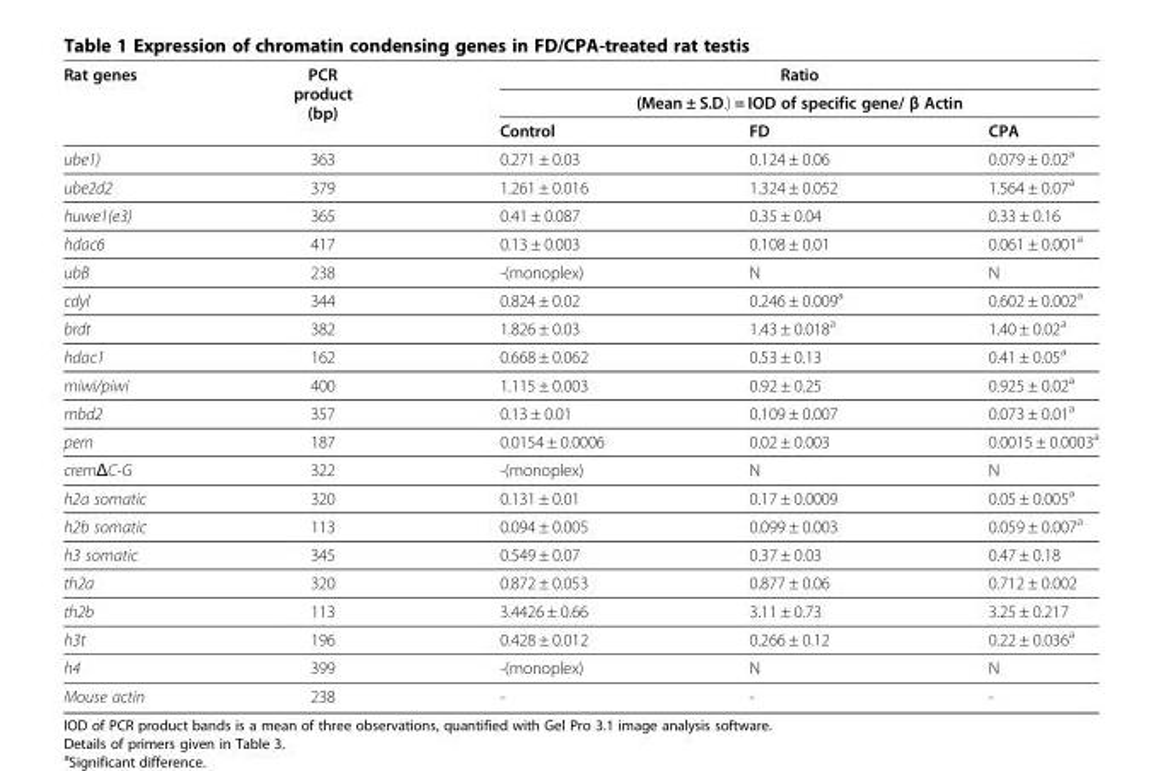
<table><thead><tr><td rowspan="3">Rat genes</td><td rowspan="3">PCR product (bp)</td><td rowspan="2" colspan="3">Ratio (Mean ± S.D.) = IOD of specific gene/ β Actin</td></tr><tr></tr><tr><td>Control</td><td>FD</td><td>CPA</td></tr></thead><tbody><tr><td>ube1)</td><td>363</td><td>0.271 ± 0.03</td><td>0.124 ± 0.06</td><td>0.079 ± 0.02<sup>a</sup></td></tr><tr><td>ube2d2</td><td>379</td><td>1.261 ± 0.016</td><td>1.324 ± 0.052</td><td>1.564 ± 0.07<sup>a</sup></td></tr><tr><td>huwe1(e3)</td><td>365</td><td>0.41 ± 0.087</td><td>0.35 ± 0.04</td><td>0.33 ± 0.16</td></tr><tr><td>hdac6</td><td>417</td><td>0.13 ± 0.003</td><td>0.108 ± 0.01</td><td>0.061 ± 0.001<sup>a</sup></td></tr><tr><td>ubB</td><td>238</td><td>-(monoplex)</td><td>N</td><td>N</td></tr><tr><td>cdyl</td><td>344</td><td>0.824 ± 0.02</td><td>0.246 ± 0.009<sup>a</sup></td><td>0.602 ± 0.002<sup>a</sup></td></tr><tr><td>brdt</td><td>382</td><td>1.826 ± 0.03</td><td>1.43 ± 0.018<sup>a</sup></td><td>1.40 ± 0.02<sup>a</sup></td></tr><tr><td>hdac1</td><td>162</td><td>0.668 ± 0.062</td><td>0.53 ± 0.13</td><td>0.41 ± 0.05<sup>a</sup></td></tr><tr><td>miwi/piwi</td><td>400</td><td>1.115 ± 0.003</td><td>0.92 ± 0.25</td><td>0.925 ± 0.02<sup>a</sup></td></tr><tr><td>mbd2</td><td>357</td><td>0.13 ± 0.01</td><td>0.109 ± 0.007</td><td>0.073 ± 0.01<sup>a</sup></td></tr><tr><td>pem</td><td>187</td><td>0.0154 ± 0.0006</td><td>0.02 ± 0.003</td><td>0.0015 ± 0.0003<sup>a</sup></td></tr><tr><td>cremΔC-G</td><td>322</td><td>-(monoplex)</td><td>N</td><td>N</td></tr><tr><td>h2a somatic</td><td>320</td><td>0.131 ± 0.01</td><td>0.17 ± 0.0009</td><td>0.05 ± 0.005<sup>a</sup></td></tr><tr><td>h2b somatic</td><td>113</td><td>0.094 ± 0.005</td><td>0.099 ± 0.003</td><td>0.059 ± 0.007<sup>a</sup></td></tr><tr><td>h3 somatic</td><td>345</td><td>0.549 ± 0.07</td><td>0.37 ± 0.03</td><td>0.47 ± 0.18</td></tr><tr><td>th2a</td><td>320</td><td>0.872 ± 0.053</td><td>0.877 ± 0.06</td><td>0.712 ± 0.002</td></tr><tr><td>th2b</td><td>113</td><td>3.4426 ± 0.66</td><td>3.11 ± 0.73</td><td>3.25 ± 0.217</td></tr><tr><td>h3t</td><td>196</td><td>0.428 ± 0.012</td><td>0.266 ± 0.12</td><td>0.22 ± 0.036<sup>a</sup></td></tr><tr><td>h4</td><td>399</td><td>-(monoplex)</td><td>N</td><td>N</td></tr><tr><td>Mouse actin</td><td>238</td><td>-</td><td>-</td><td>-</td></tr></tbody></table>